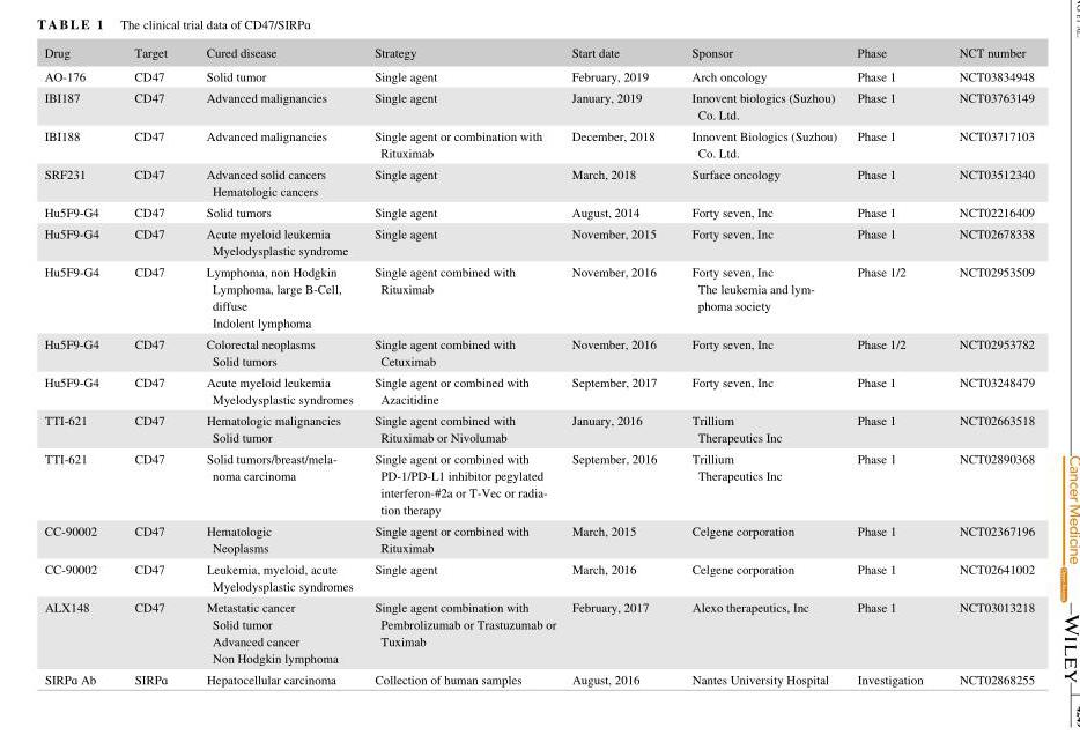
<table><thead><tr><td>Drug</td><td>Target</td><td>Cured disease</td><td>Strategy</td><td>Start date</td><td>Sponsor</td><td>Phase</td><td>NCT number</td></tr></thead><tbody><tr><td>AO‐176</td><td>CD47</td><td>Solid tumor</td><td>Single agent</td><td>February, 2019</td><td>Arch oncology</td><td>Phase 1</td><td>NCT03834948</td></tr><tr><td>IBI187</td><td>CD47</td><td>Advanced malignancies</td><td>Single agent</td><td>January, 2019</td><td>Innovent biologics (Suzhou) Co. Ltd.</td><td>Phase 1</td><td>NCT03763149</td></tr><tr><td>IBI188</td><td>CD47</td><td>Advanced malignancies</td><td>Single agent or combination with Rituximab</td><td>December, 2018</td><td>Innovent Biologics (Suzhou) Co. Ltd.</td><td>Phase 1</td><td>NCT03717103</td></tr><tr><td>SRF231</td><td>CD47</td><td>Advanced solid cancers Hematologic cancers</td><td>Single agent</td><td>March, 2018</td><td>Surface oncology</td><td>Phase 1</td><td>NCT03512340</td></tr><tr><td>Hu5F9‐G4</td><td>CD47</td><td>Solid tumors</td><td>Single agent</td><td>August, 2014</td><td>Forty seven, Inc</td><td>Phase 1</td><td>NCT02216409</td></tr><tr><td>Hu5F9‐G4</td><td>CD47</td><td>Acute myeloid leukemia Myelodysplastic syndrome</td><td>Single agent</td><td>November, 2015</td><td>Forty seven, Inc</td><td>Phase 1</td><td>NCT02678338</td></tr><tr><td>Hu5F9‐G4</td><td>CD47</td><td>Lymphoma, non Hodgkin Lymphoma, large B‐Cell, diffuse Indolent lymphoma</td><td>Single agent combined with Rituximab</td><td>November, 2016</td><td>Forty seven, Inc The leukemia and lym- phoma society</td><td>Phase 1/2</td><td>NCT02953509</td></tr><tr><td>Hu5F9‐G4</td><td>CD47</td><td>Colorectal neoplasms Solid tumors</td><td>Single agent combined with Cetuximab</td><td>November, 2016</td><td>Forty seven, Inc</td><td>Phase 1/2</td><td>NCT02953782</td></tr><tr><td>Hu5F9‐G4</td><td>CD47</td><td>Acute myeloid leukemia Myelodysplastic syndromes</td><td>Single agent or combined with Azacitidine</td><td>September, 2017</td><td>Forty seven, Inc</td><td>Phase 1</td><td>NCT03248479</td></tr><tr><td>TTI‐621</td><td>CD47</td><td>Hematologic malignancies Solid tumor</td><td>Single agent combined with Rituximab or Nivolumab</td><td>January, 2016</td><td>Trillium Therapeutics Inc</td><td>Phase 1</td><td>NCT02663518</td></tr><tr><td>TTI‐621</td><td>CD47</td><td>Solid tumors/breast/mela- noma carcinoma</td><td>Single agent or combined with PD‐1/PD‐L1 inhibitor pegylated interferon‐#2a or T‐Vec or radia- tion therapy</td><td>September, 2016</td><td>Trillium Therapeutics Inc</td><td>Phase 1</td><td>NCT02890368</td></tr><tr><td>CC‐90002</td><td>CD47</td><td>Hematologic Neoplasms</td><td>Single agent or combined with Rituximab</td><td>March, 2015</td><td>Celgene corporation</td><td>Phase 1</td><td>NCT02367196</td></tr><tr><td>CC‐90002</td><td>CD47</td><td>Leukemia, myeloid, acute Myelodysplastic syndromes</td><td>Single agent</td><td>March, 2016</td><td>Celgene corporation</td><td>Phase 1</td><td>NCT02641002</td></tr><tr><td>ALX148</td><td>CD47</td><td>Metastatic cancer Solid tumor Advanced cancer Non Hodgkin lymphoma</td><td>Single agent combination with Pembrolizumab or Trastuzumab or Tuximab</td><td>February, 2017</td><td>Alexo therapeutics, Inc</td><td>Phase 1</td><td>NCT03013218</td></tr><tr><td>SIRPɑ Ab</td><td>SIRPɑ</td><td>Hepatocellular carcinoma</td><td>Collection of human samples</td><td>August, 2016</td><td>Nantes University Hospital</td><td>Investigation</td><td>NCT02868255</td></tr></tbody></table>